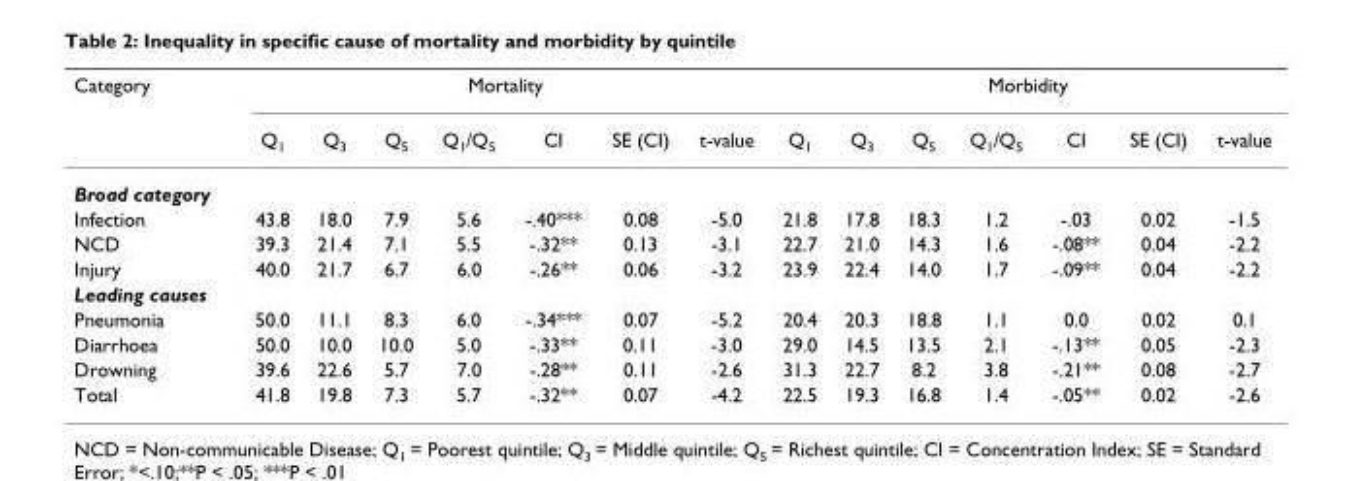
<table><thead><tr><td rowspan="2">Category</td><td colspan="7">Mortality</td><td colspan="7">Morbidity</td></tr><tr><td>Q<sub>1</sub></td><td>Q<sub>3</sub></td><td>Q<sub>5</sub></td><td>Q<sub>1</sub>/Q<sub>5</sub></td><td>CI</td><td>SE (CI)</td><td>t-value</td><td>Q<sub>1</sub></td><td>Q<sub>3</sub></td><td>Q<sub>5</sub></td><td>Q<sub>1</sub>/Q<sub>5</sub></td><td>CI</td><td>SE (CI)</td><td>t-value</td></tr></thead><tbody><tr><td colspan="15">Broad category</td></tr><tr><td>Infection</td><td>43.8</td><td>18.0</td><td>7.9</td><td>5.6</td><td>-.40***</td><td>0.08</td><td>-5.0</td><td>21.8</td><td>17.8</td><td>18.3</td><td>1.2</td><td>-.03</td><td>0.02</td><td>-1.5</td></tr><tr><td>NCD</td><td>39.3</td><td>21.4</td><td>7.1</td><td>5.5</td><td>-.32**</td><td>0.13</td><td>-3.1</td><td>22.7</td><td>21.0</td><td>14.3</td><td>1.6</td><td>-.08**</td><td>0.04</td><td>-2.2</td></tr><tr><td>Injury</td><td>40.0</td><td>21.7</td><td>6.7</td><td>6.0</td><td>-.26**</td><td>0.06</td><td>-3.2</td><td>23.9</td><td>22.4</td><td>14.0</td><td>1.7</td><td>-.09**</td><td>0.04</td><td>-2.2</td></tr><tr><td colspan="15">Leading causes</td></tr><tr><td>Pneumonia</td><td>50.0</td><td>11.1</td><td>8.3</td><td>6.0</td><td>-.34***</td><td>0.07</td><td>-5.2</td><td>20.4</td><td>20.3</td><td>18.8</td><td>1.1</td><td>0.0</td><td>0.02</td><td>0.1</td></tr><tr><td>Diarrhoea</td><td>50.0</td><td>10.0</td><td>10.0</td><td>5.0</td><td>-.33**</td><td>0.11</td><td>-3.0</td><td>29.0</td><td>14.5</td><td>13.5</td><td>2.1</td><td>-.13**</td><td>0.05</td><td>-2.3</td></tr><tr><td>Drowning</td><td>39.6</td><td>22.6</td><td>5.7</td><td>7.0</td><td>-.28**</td><td>0.11</td><td>-2.6</td><td>31.3</td><td>22.7</td><td>8.2</td><td>3.8</td><td>-.21**</td><td>0.08</td><td>-2.7</td></tr><tr><td>Total</td><td>41.8</td><td>19.8</td><td>7.3</td><td>5.7</td><td>-.32**</td><td>0.07</td><td>-4.2</td><td>22.5</td><td>19.3</td><td>16.8</td><td>1.4</td><td>-.05**</td><td>0.02</td><td>-2.6</td></tr></tbody></table>